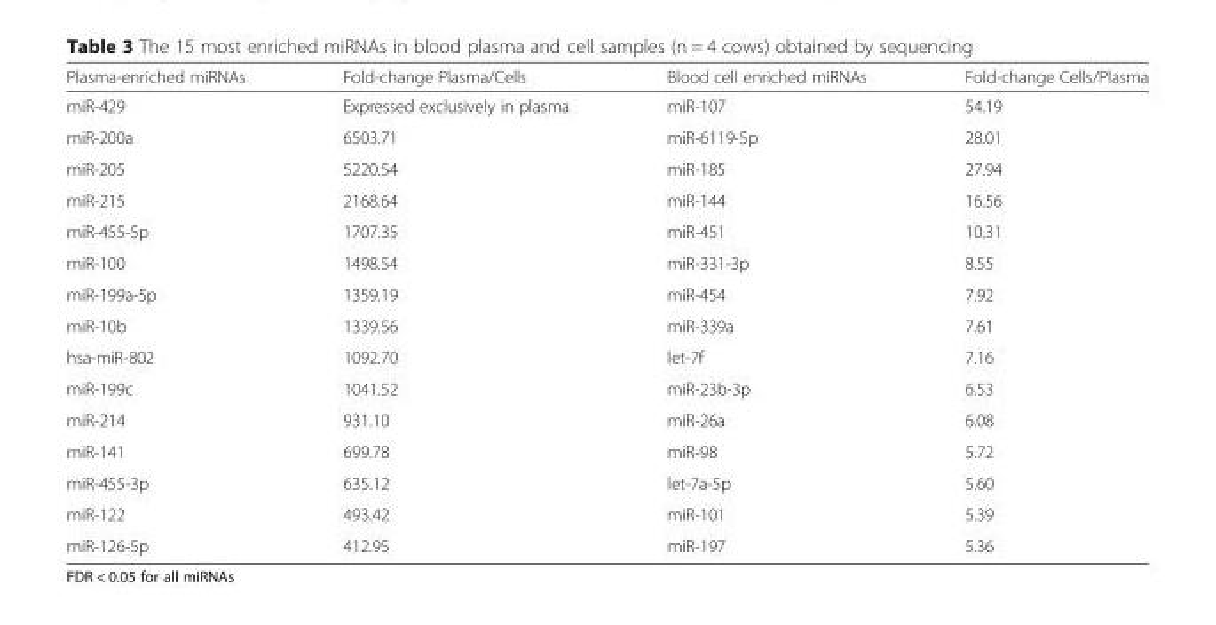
<table><thead><tr><td>Plasma-enriched miRNAs</td><td>Fold-change Plasma/Cells</td><td>Blood cell enriched miRNAs</td><td>Fold-change Cells/Plasma</td></tr></thead><tbody><tr><td>miR-429</td><td>Expressed exclusively in plasma</td><td>miR-107</td><td>54.19</td></tr><tr><td>miR-200a</td><td>6503.71</td><td>miR-6119-5p</td><td>28.01</td></tr><tr><td>miR-205</td><td>5220.54</td><td>miR-185</td><td>27.94</td></tr><tr><td>miR-215</td><td>2168.64</td><td>miR-144</td><td>16.56</td></tr><tr><td>miR-455-5p</td><td>1707.35</td><td>miR-451</td><td>10.31</td></tr><tr><td>miR-100</td><td>1498.54</td><td>miR-331-3p</td><td>8.55</td></tr><tr><td>miR-199a-5p</td><td>1359.19</td><td>miR-454</td><td>7.92</td></tr><tr><td>miR-10b</td><td>1339.56</td><td>miR-339a</td><td>7.61</td></tr><tr><td>hsa-miR-802</td><td>1092.70</td><td>let-7f</td><td>7.16</td></tr><tr><td>miR-199c</td><td>1041.52</td><td>miR-23b-3p</td><td>6.53</td></tr><tr><td>miR-214</td><td>931.10</td><td>miR-26a</td><td>6.08</td></tr><tr><td>miR-141</td><td>699.78</td><td>miR-98</td><td>5.72</td></tr><tr><td>miR-455-3p</td><td>635.12</td><td>let-7a-5p</td><td>5.60</td></tr><tr><td>miR-122</td><td>493.42</td><td>miR-101</td><td>5.39</td></tr><tr><td>miR-126-5p</td><td>412.95</td><td>miR-197</td><td>5.36</td></tr></tbody></table>